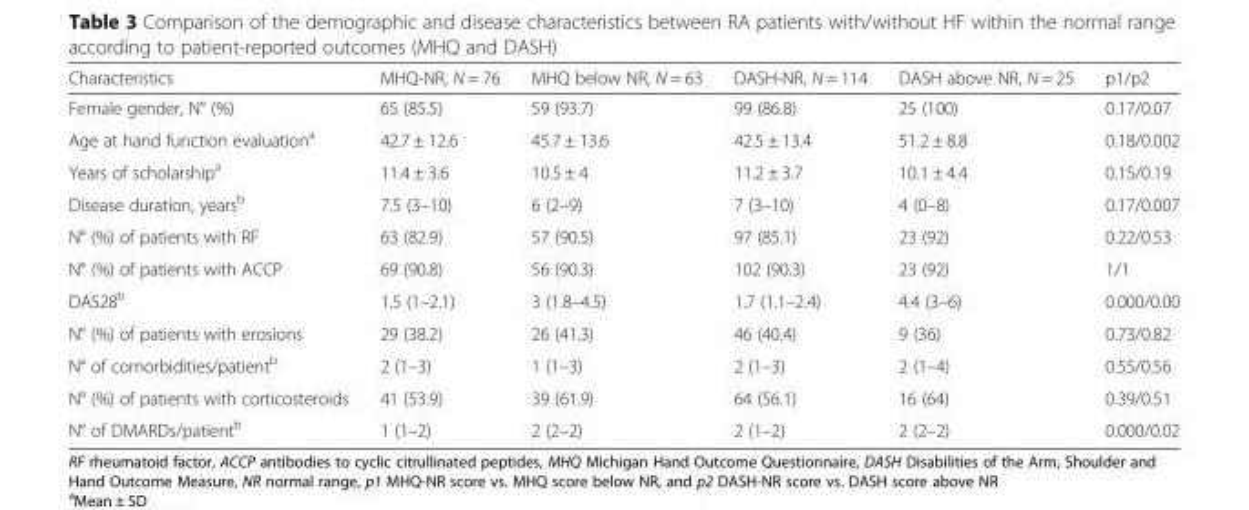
<table><thead><tr><td>Characteristics</td><td>MHQ-NR, N = 76</td><td>MHQ below NR, N = 63</td><td>DASH-NR, N = 114</td><td>DASH above NR, N = 25</td><td>p1/p2</td></tr></thead><tbody><tr><td>Female gender, N° (%)</td><td>65 (85.5)</td><td>59 (93.7)</td><td>99 (86.8)</td><td>25 (100)</td><td>0.17/0.07</td></tr><tr><td>Age at hand function evaluation<sup>a</sup></td><td>42.7 ± 12.6</td><td>45.7 ± 13.6</td><td>42.5 ± 13.4</td><td>51.2 ± 8.8</td><td>0.18/0.002</td></tr><tr><td>Years of scholarship<sup>a</sup></td><td>11.4 ± 3.6</td><td>10.5 ± 4</td><td>11.2 ± 3.7</td><td>10.1 ± 4.4</td><td>0.15/0.19</td></tr><tr><td>Disease duration, years<sup>b</sup></td><td>7.5 (3–10)</td><td>6 (2–9)</td><td>7 (3–10)</td><td>4 (0–8)</td><td>0.17/0.007</td></tr><tr><td>N° (%) of patients with RF</td><td>63 (82.9)</td><td>57 (90.5)</td><td>97 (85.1)</td><td>23 (92)</td><td>0.22/0.53</td></tr><tr><td>N° (%) of patients with ACCP</td><td>69 (90.8)</td><td>56 (90.3)</td><td>102 (90.3)</td><td>23 (92)</td><td>1/1</td></tr><tr><td>DAS28<sup>b</sup></td><td>1.5 (1–2.1)</td><td>3 (1.8–4.5)</td><td>1.7 (1.1–2.4)</td><td>4.4 (3–6)</td><td>0.000/0.00</td></tr><tr><td>N° (%) of patients with erosions</td><td>29 (38.2)</td><td>26 (41.3)</td><td>46 (40.4)</td><td>9 (36)</td><td>0.73/0.82</td></tr><tr><td>N° of comorbidities/patient<sup>b</sup></td><td>2 (1–3)</td><td>1 (1–3)</td><td>2 (1–3)</td><td>2 (1–4)</td><td>0.55/0.56</td></tr><tr><td>N° (%) of patients with corticosteroids</td><td>41 (53.9)</td><td>39 (61.9)</td><td>64 (56.1)</td><td>16 (64)</td><td>0.39/0.51</td></tr><tr><td>N° of DMARDs/patient<sup>b</sup></td><td>1 (1–2)</td><td>2 (2–2)</td><td>2 (1–2)</td><td>2 (2–2)</td><td>0.000/0.02</td></tr></tbody></table>